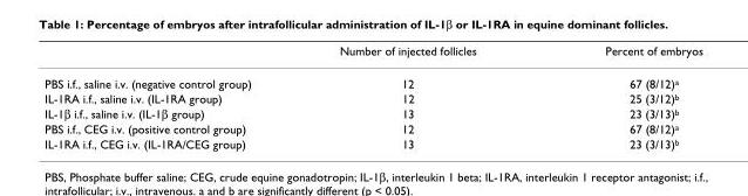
<table><thead><tr><td></td><td>Number of injected follicles</td><td>Percent of embryos</td></tr></thead><tbody><tr><td>PBS i.f., saline i.v. (negative control group)</td><td>12</td><td>67 (8/12)<sup>a</sup></td></tr><tr><td>IL-1RA i.f., saline i.v. (IL-1RA group)</td><td>12</td><td>25 (3/12)<sup>b</sup></td></tr><tr><td>IL-1β i.f., saline i.v. (IL-1β group)</td><td>13</td><td>23 (3/13)<sup>b</sup></td></tr><tr><td>PBS i.f., CEG i.v. (positive control group)</td><td>12</td><td>67 (8/12)<sup>a</sup></td></tr><tr><td>IL-1RA i.f., CEG i.v. (IL-1RA/CEG group)</td><td>13</td><td>23 (3/13)<sup>b</sup></td></tr></tbody></table>